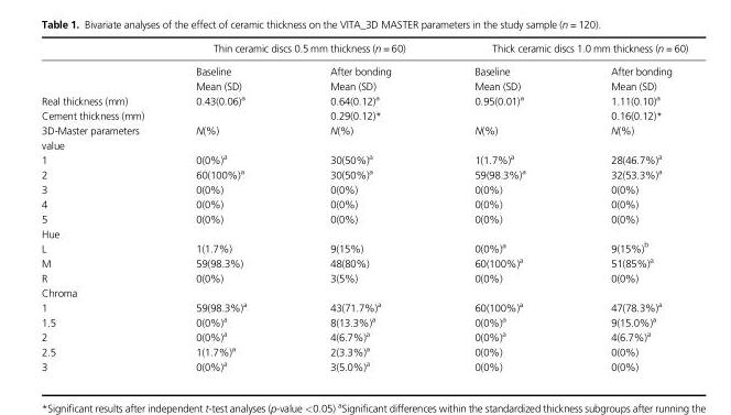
<table><thead><tr><td rowspan="2"></td><td colspan="2">Thin ceramic discs 0.5 mm thickness (n = 60)</td><td colspan="2">Thick ceramic discs 1.0 mm thickness (n = 60)</td></tr><tr><td>Baseline</td><td>After bonding</td><td>Baseline</td><td>After bonding</td></tr></thead><tbody><tr><td></td><td>Mean (SD)</td><td>Mean (SD)</td><td>Mean (SD)</td><td>Mean (SD)</td></tr><tr><td>Real thickness (mm)</td><td>0.43(0.06)<sup>a</sup></td><td>0.64(0.12)<sup>a</sup></td><td>0.95(0.01)<sup>a</sup></td><td>1.11(0.10)<sup>a</sup></td></tr><tr><td>Cement thickness (mm)</td><td></td><td>0.29(0.12)*</td><td></td><td>0.16(0.12)*</td></tr><tr><td>3D-Master parameters</td><td>N(%)</td><td>N(%)</td><td>N(%)</td><td>N(%)</td></tr><tr><td colspan="5">value</td></tr><tr><td>1</td><td>0(0%)<sup>a</sup></td><td>30(50%)<sup>a</sup></td><td>1(1.7%)<sup>a</sup></td><td>28(46.7%)<sup>a</sup></td></tr><tr><td>2</td><td>60(100%)<sup>a</sup></td><td>30(50%)<sup>a</sup></td><td>59(98.3%)<sup>a</sup></td><td>32(53.3%)<sup>a</sup></td></tr><tr><td>3</td><td>0(0%)</td><td>0(0%)</td><td>0(0%)</td><td>0(0%)</td></tr><tr><td>4</td><td>0(0%)</td><td>0(0%)</td><td>0(0%)</td><td>0(0%)</td></tr><tr><td>5</td><td>0(0%)</td><td>0(0%)</td><td>0(0%)</td><td>0(0%)</td></tr><tr><td colspan="5">Hue</td></tr><tr><td>L</td><td>1(1.7%)</td><td>9(15%)</td><td>0(0%)<sup>a</sup></td><td>9(15%)<sup>b</sup></td></tr><tr><td>M</td><td>59(98.3%)</td><td>48(80%)</td><td>60(100%)<sup>a</sup></td><td>51(85%)<sup>a</sup></td></tr><tr><td>R</td><td>0(0%)</td><td>3(5%)</td><td>0(0%)</td><td>0(0%)</td></tr><tr><td colspan="5">Chroma</td></tr><tr><td>1</td><td>59(98.3%)<sup>a</sup></td><td>43(71.7%)<sup>a</sup></td><td>60(100%)<sup>a</sup></td><td>47(78.3%)<sup>a</sup></td></tr><tr><td>1.5</td><td>0(0%)<sup>a</sup></td><td>8(13.3%)<sup>a</sup></td><td>0(0%)<sup>a</sup></td><td>9(15.0%)<sup>a</sup></td></tr><tr><td>2</td><td>0(0%)<sup>a</sup></td><td>4(6.7%)<sup>a</sup></td><td>0(0%)<sup>a</sup></td><td>4(6.7%)<sup>a</sup></td></tr><tr><td>2.5</td><td>1(1.7%)<sup>a</sup></td><td>2(3.3%)<sup>a</sup></td><td>0(0%)</td><td>0(0%)</td></tr><tr><td>3</td><td>0(0%)<sup>a</sup></td><td>3(5.0%)<sup>a</sup></td><td>0(0%)</td><td>0(0%)</td></tr></tbody></table>